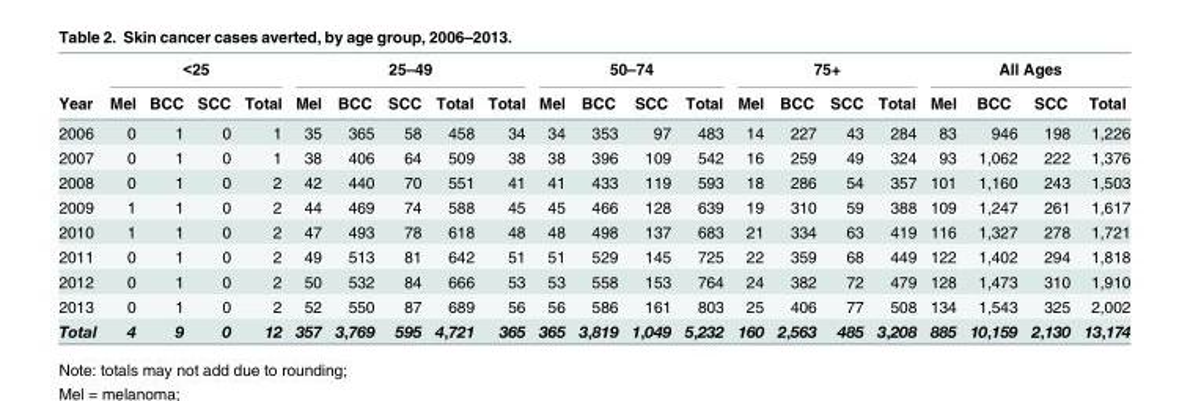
<table><thead><tr><td rowspan="2">Year</td><td colspan="4">&lt;25</td><td colspan="5">25–49</td><td colspan="4">50–74</td><td colspan="4">75+</td><td colspan="4">All Ages</td></tr><tr><td>Mel</td><td>BCC</td><td>SCC</td><td>Total</td><td>Mel</td><td>BCC</td><td>SCC</td><td>Total</td><td>Total</td><td>Mel</td><td>BCC</td><td>SCC</td><td>Total</td><td>Mel</td><td>BCC</td><td>SCC</td><td>Total</td><td>Mel</td><td>BCC</td><td>SCC</td><td>Total</td></tr></thead><tbody><tr><td>2006</td><td>0</td><td>1</td><td>0</td><td>1</td><td>35</td><td>365</td><td>58</td><td>458</td><td>34</td><td>34</td><td>353</td><td>97</td><td>483</td><td>14</td><td>227</td><td>43</td><td>284</td><td>83</td><td>946</td><td>198</td><td>1,226</td></tr><tr><td>2007</td><td>0</td><td>1</td><td>0</td><td>1</td><td>38</td><td>406</td><td>64</td><td>509</td><td>38</td><td>38</td><td>396</td><td>109</td><td>542</td><td>16</td><td>259</td><td>49</td><td>324</td><td>93</td><td>1,062</td><td>222</td><td>1,376</td></tr><tr><td>2008</td><td>0</td><td>1</td><td>0</td><td>2</td><td>42</td><td>440</td><td>70</td><td>551</td><td>41</td><td>41</td><td>433</td><td>119</td><td>593</td><td>18</td><td>286</td><td>54</td><td>357</td><td>101</td><td>1,160</td><td>243</td><td>1,503</td></tr><tr><td>2009</td><td>1</td><td>1</td><td>0</td><td>2</td><td>44</td><td>469</td><td>74</td><td>588</td><td>45</td><td>45</td><td>466</td><td>128</td><td>639</td><td>19</td><td>310</td><td>59</td><td>388</td><td>109</td><td>1,247</td><td>261</td><td>1,617</td></tr><tr><td>2010</td><td>1</td><td>1</td><td>0</td><td>2</td><td>47</td><td>493</td><td>78</td><td>618</td><td>48</td><td>48</td><td>498</td><td>137</td><td>683</td><td>21</td><td>334</td><td>63</td><td>419</td><td>116</td><td>1,327</td><td>278</td><td>1,721</td></tr><tr><td>2011</td><td>0</td><td>1</td><td>0</td><td>2</td><td>49</td><td>513</td><td>81</td><td>642</td><td>51</td><td>51</td><td>529</td><td>145</td><td>725</td><td>22</td><td>359</td><td>68</td><td>449</td><td>122</td><td>1,402</td><td>294</td><td>1,818</td></tr><tr><td>2012</td><td>0</td><td>1</td><td>0</td><td>2</td><td>50</td><td>532</td><td>84</td><td>666</td><td>53</td><td>53</td><td>558</td><td>153</td><td>764</td><td>24</td><td>382</td><td>72</td><td>479</td><td>128</td><td>1,473</td><td>310</td><td>1,910</td></tr><tr><td>2013</td><td>0</td><td>1</td><td>0</td><td>2</td><td>52</td><td>550</td><td>87</td><td>689</td><td>56</td><td>56</td><td>586</td><td>161</td><td>803</td><td>25</td><td>406</td><td>77</td><td>508</td><td>134</td><td>1,543</td><td>325</td><td>2,002</td></tr><tr><td>Total</td><td>4</td><td>9</td><td>0</td><td>12</td><td>357</td><td>3,769</td><td>595</td><td>4,721</td><td>365</td><td>365</td><td>3,819</td><td>1,049</td><td>5,232</td><td>160</td><td>2,563</td><td>485</td><td>3,208</td><td>885</td><td>10,159</td><td>2,130</td><td>13,174</td></tr></tbody></table>